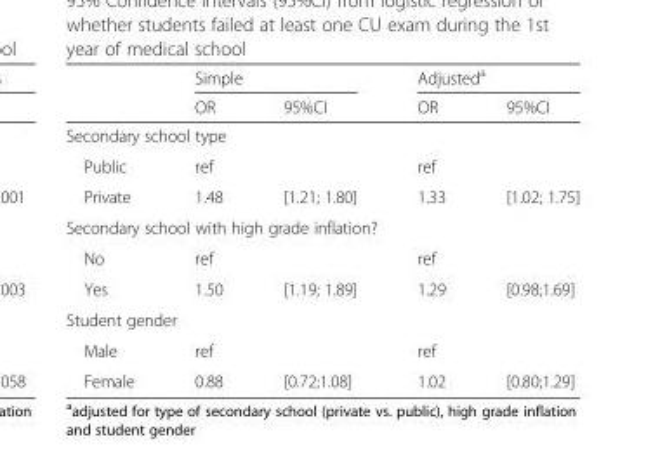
<table><thead><tr><td rowspan="2"></td><td colspan="2">Simple</td><td colspan="2">Adjusted<sup>a</sup></td></tr><tr><td>OR</td><td>95%CI</td><td>OR</td><td>95%CI</td></tr></thead><tbody><tr><td colspan="5">Secondary school type</td></tr><tr><td>Public</td><td>ref</td><td></td><td>ref</td><td></td></tr><tr><td>Private</td><td>1.48</td><td>[1.21; 1.80]</td><td>1.33</td><td>[1.02; 1.75]</td></tr><tr><td colspan="5">Secondary school with high grade inflation?</td></tr><tr><td>No</td><td>ref</td><td></td><td>ref</td><td></td></tr><tr><td>Yes</td><td>1.50</td><td>[1.19; 1.89]</td><td>1.29</td><td>[0.98;1.69]</td></tr><tr><td colspan="5">Student gender</td></tr><tr><td>Male</td><td>ref</td><td></td><td>ref</td><td></td></tr><tr><td>Female</td><td>0.88</td><td>[0.72;1.08]</td><td>1.02</td><td>[0.80;1.29]</td></tr></tbody></table>